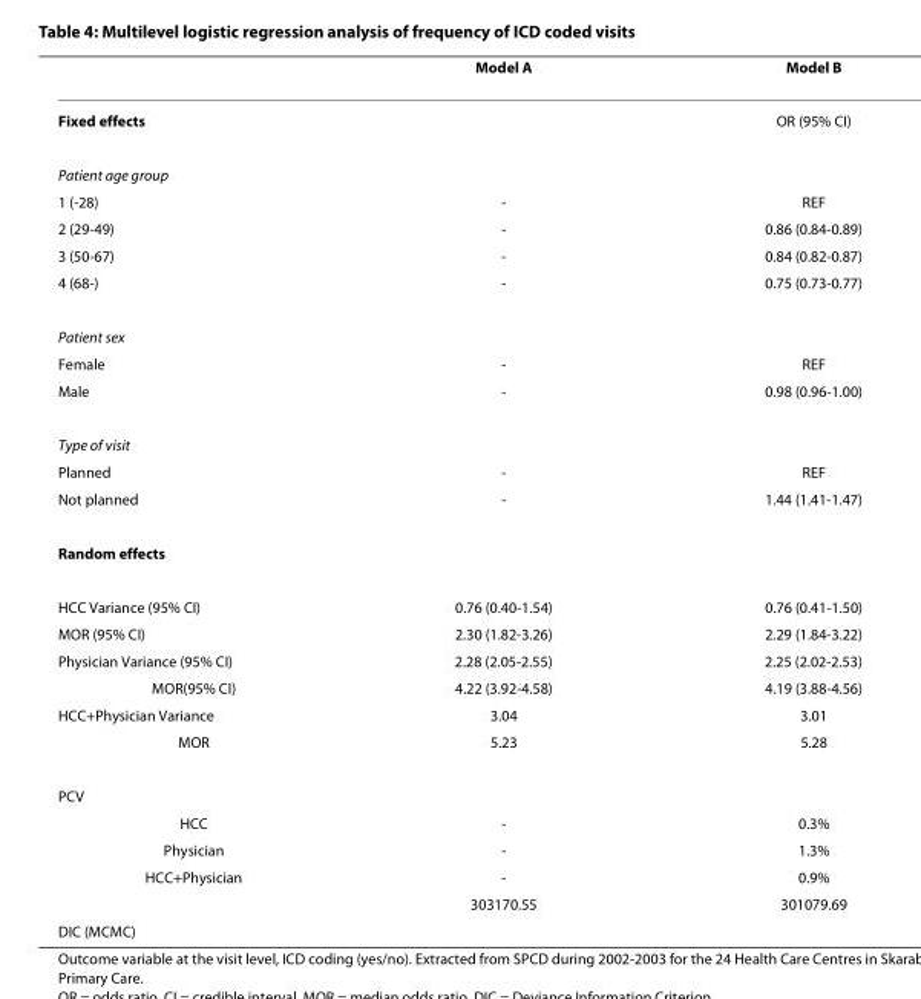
<table><thead><tr><td></td><td>Model A</td><td>Model B</td></tr></thead><tbody><tr><td>Fixed effects</td><td></td><td>OR (95% CI)</td></tr><tr><td colspan="3">Patient age group</td></tr><tr><td>1 (-28)</td><td>-</td><td>REF</td></tr><tr><td>2 (29-49)</td><td>-</td><td>0.86 (0.84-0.89)</td></tr><tr><td>3 (50-67)</td><td>-</td><td>0.84 (0.82-0.87)</td></tr><tr><td>4 (68-)</td><td>-</td><td>0.75 (0.73-0.77)</td></tr><tr><td colspan="3">Patient sex</td></tr><tr><td>Female</td><td>-</td><td>REF</td></tr><tr><td>Male</td><td>-</td><td>0.98 (0.96-1.00)</td></tr><tr><td colspan="3">Type of visit</td></tr><tr><td>Planned</td><td>-</td><td>REF</td></tr><tr><td>Not planned</td><td>-</td><td>1.44 (1.41-1.47)</td></tr><tr><td colspan="3">Random effects</td></tr><tr><td>HCC Variance (95% CI)</td><td>0.76 (0.40-1.54)</td><td>0.76 (0.41-1.50)</td></tr><tr><td>MOR (95% CI)</td><td>2.30 (1.82-3.26)</td><td>2.29 (1.84-3.22)</td></tr><tr><td>Physician Variance (95% CI)</td><td>2.28 (2.05-2.55)</td><td>2.25 (2.02-2.53)</td></tr><tr><td>MOR(95% CI)</td><td>4.22 (3.92-4.58)</td><td>4.19 (3.88-4.56)</td></tr><tr><td>HCC+Physician Variance</td><td>3.04</td><td>3.01</td></tr><tr><td>MOR</td><td>5.23</td><td>5.28</td></tr><tr><td colspan="3">PCV</td></tr><tr><td>HCC</td><td>-</td><td>0.3%</td></tr><tr><td>Physician</td><td>-</td><td>1.3%</td></tr><tr><td rowspan="2">HCC+Physician</td><td>-</td><td>0.9%</td></tr><tr><td>303170.55</td><td>301079.69</td></tr><tr><td>DIC (MCMC)</td><td></td><td></td></tr></tbody></table>